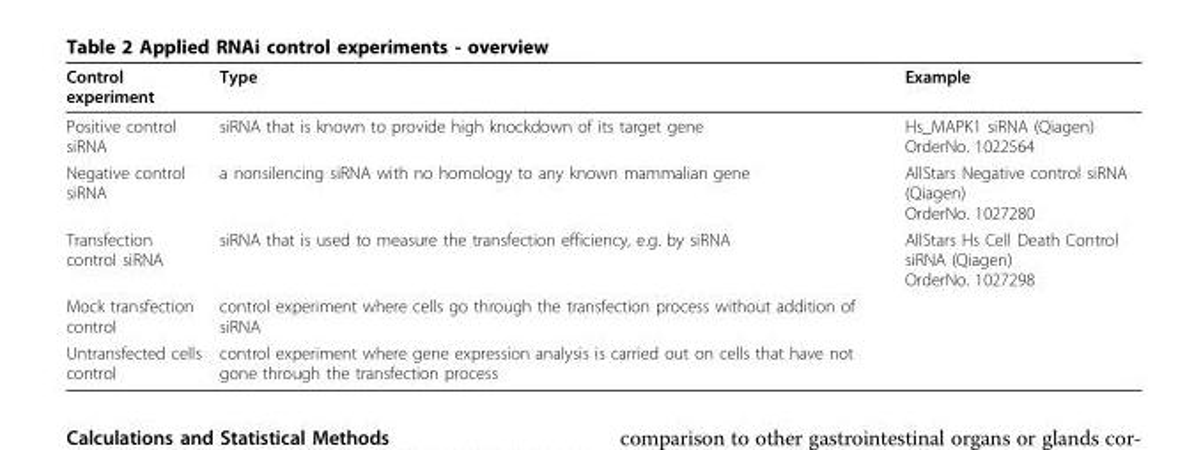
<table><thead><tr><td>Control experiment</td><td>Type</td><td>Example</td></tr></thead><tbody><tr><td>Positive control siRNA</td><td>siRNA that is known to provide high knockdown of its target gene</td><td>Hs_MAPK1 siRNA (Qiagen) OrderNo. 1022564</td></tr><tr><td>Negative control siRNA</td><td>a nonsilencing siRNA with no homology to any known mammalian gene</td><td>AllStars Negative control siRNA (Qiagen) OrderNo. 1027280</td></tr><tr><td>Transfection control siRNA</td><td>siRNA that is used to measure the transfection efficiency, e.g. by siRNA</td><td>AllStars Hs Cell Death Control siRNA (Qiagen) OrderNo. 1027298</td></tr><tr><td>Mock transfection control</td><td>control experiment where cells go through the transfection process without addition of siRNA</td><td></td></tr><tr><td>Untransfected cells control</td><td>control experiment where gene expression analysis is carried out on cells that have not gone through the transfection process</td><td></td></tr></tbody></table>